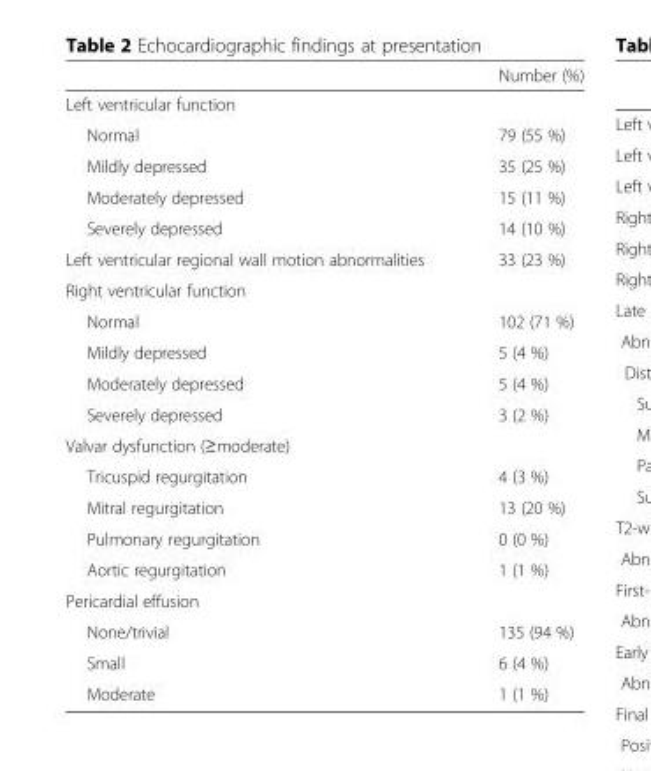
<table><thead><tr><td></td><td>Number (%)</td></tr></thead><tbody><tr><td colspan="2">Left ventricular function</td></tr><tr><td>Normal</td><td>79 (55 %)</td></tr><tr><td>Mildly depressed</td><td>35 (25 %)</td></tr><tr><td>Moderately depressed</td><td>15 (11 %)</td></tr><tr><td>Severely depressed</td><td>14 (10 %)</td></tr><tr><td>Left ventricular regional wall motion abnormalities</td><td>33 (23 %)</td></tr><tr><td colspan="2">Right ventricular function</td></tr><tr><td>Normal</td><td>102 (71 %)</td></tr><tr><td>Mildly depressed</td><td>5 (4 %)</td></tr><tr><td>Moderately depressed</td><td>5 (4 %)</td></tr><tr><td>Severely depressed</td><td>3 (2 %)</td></tr><tr><td colspan="2">Valvar dysfunction (≥moderate)</td></tr><tr><td>Tricuspid regurgitation</td><td>4 (3 %)</td></tr><tr><td>Mitral regurgitation</td><td>13 (20 %)</td></tr><tr><td>Pulmonary regurgitation</td><td>0 (0 %)</td></tr><tr><td>Aortic regurgitation</td><td>1 (1 %)</td></tr><tr><td colspan="2">Pericardial effusion</td></tr><tr><td>None/trivial</td><td>135 (94 %)</td></tr><tr><td>Small</td><td>6 (4 %)</td></tr><tr><td>Moderate</td><td>1 (1 %)</td></tr></tbody></table>